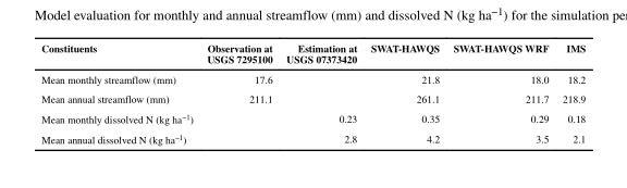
<table><thead><tr><td>Constituents</td><td>Observation at USGS 7295100</td><td>Estimation at USGS 07373420</td><td>SWAT-HAWQS</td><td>SWAT-HAWQS WRF</td><td>IMS</td></tr></thead><tbody><tr><td>Mean monthly streamflow (mm)</td><td>17.6</td><td></td><td>21.8</td><td>18.0</td><td>18.2</td></tr><tr><td>Mean annual streamflow (mm)</td><td>211.1</td><td></td><td>261.1</td><td>211.7</td><td>218.9</td></tr><tr><td>Mean monthly dissolved N (kg ha<sup>−1</sup>)</td><td></td><td>0.23</td><td>0.35</td><td>0.29</td><td>0.18</td></tr><tr><td>Mean annual dissolved N (kg ha<sup>−1</sup>)</td><td></td><td>2.8</td><td>4.2</td><td>3.5</td><td>2.1</td></tr></tbody></table>